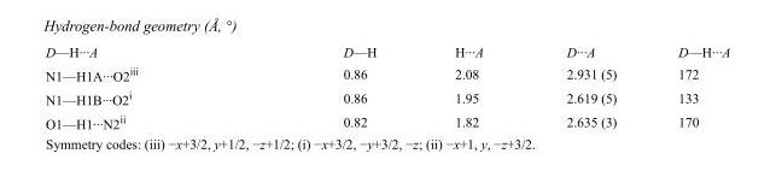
<table><tbody><tr><td>D—H···A</td><td>D—H</td><td>H···A</td><td>D···A</td><td>D—H···A</td></tr><tr><td>N1—H1A···O2<sup>iii</sup></td><td>0.86</td><td>2.08</td><td>2.931 (5)</td><td>172</td></tr><tr><td>N1—H1B···O2<sup>i</sup></td><td>0.86</td><td>1.95</td><td>2.619 (5)</td><td>133</td></tr><tr><td>O1—H1···N2<sup>ii</sup></td><td>0.82</td><td>1.82</td><td>2.635 (3)</td><td>170</td></tr></tbody></table>